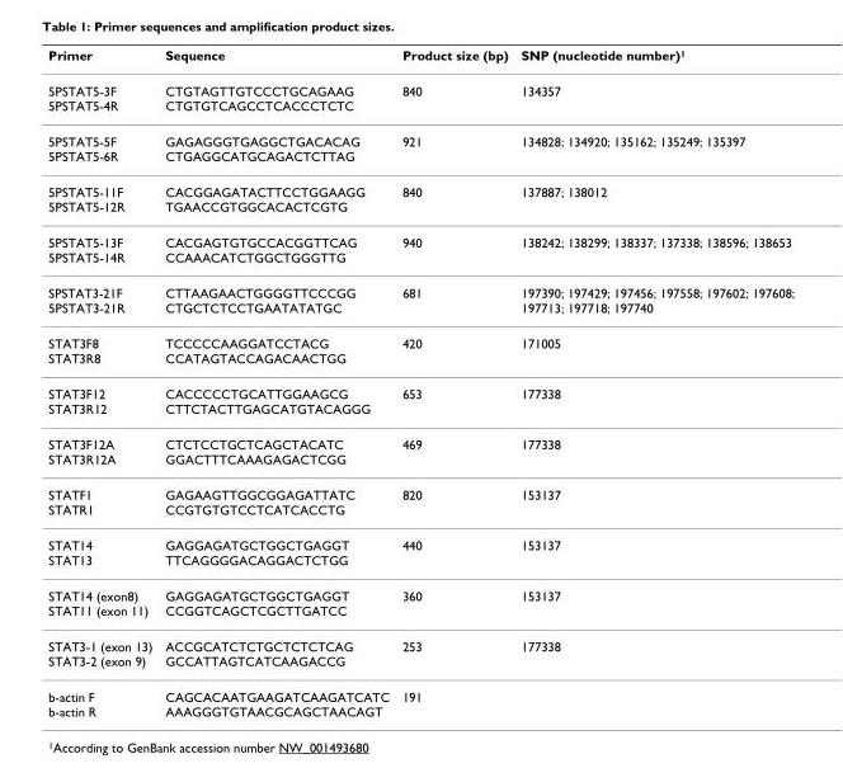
<table><thead><tr><td>Primer</td><td>Sequence</td><td>Product size (bp)</td><td>SNP (nucleotide number)<sup>1</sup></td></tr></thead><tbody><tr><td>5PSTAT5-3F 5PSTAT5-4R</td><td>CTGTAGTTGTCCCTGCAGAAG CTGTGTCAGCCTCACCCTCTC</td><td>840</td><td>134357</td></tr><tr><td>5PSTAT5-5F 5PSTAT5-6R</td><td>GAGAGGGTGAGGCTGACACAG CTGAGGCATGCAGACTCTTAG</td><td>921</td><td>134828; 134920; 135162; 135249; 135397</td></tr><tr><td>5PSTAT5-11F 5PSTAT5-12R</td><td>CACGGAGATACTTCCTGGAAGG TGAACCGTGGCACACTCGTG</td><td>840</td><td>137887; 138012</td></tr><tr><td>5PSTAT5-13F 5PSTAT5-14R</td><td>CACGAGTGTGCCACGGTTCAG CCAAACATCTGGCTGGGTTG</td><td>940</td><td>138242; 138299; 138337; 137338; 138596; 138653</td></tr><tr><td>SPSTAT3-21F 5PSTAT3-21R</td><td>CTTAAGAACTGGGGTTCCCGG CTGCTCTCCTGAATATATGC</td><td>681</td><td>197390; 197429; 197456; 197558; 197602; 197608; 197713; 197718; 197740</td></tr><tr><td>STAT3F8 STAT3R8</td><td>TCCCCCAAGGATCCTACG CCATAGTACCAGACAACTGG</td><td>420</td><td>171005</td></tr><tr><td>STAT3F12 STAT3R12</td><td>CACCCCCTGCATTGGAAGCG CTTCTACTTGAGCATGTACAGGG</td><td>653</td><td>177338</td></tr><tr><td>STAT3F12A STAT3R12A</td><td>CTCTCCTGCTCAGCTACATC GGACTTTCAAAGAGACTCGG</td><td>469</td><td>177338</td></tr><tr><td>STATF1 STATR1</td><td>GAGAAGTTGGCGGAGATTATC CCGTGTGTCCTCATCACCTG</td><td>820</td><td>153137</td></tr><tr><td>STAT14 STAT13</td><td>GAGGAGATGCTGGCTGAGGT TTCAGGGGACAGGACTCTGG</td><td>440</td><td>153137</td></tr><tr><td>STAT14 (exon8) STAT11 (exon 11)</td><td>GAGGAGATGCTGGCTGAGGT CCGGTCAGCTCGCTTGATCC</td><td>360</td><td>153137</td></tr><tr><td>STAT3-1 (exon 13) STAT3-2 (exon 9)</td><td>ACCGCATCTCTGCTCTCTCAG GCCATTAGTCATCAAGACCG</td><td>253</td><td>177338</td></tr><tr><td>b-actin F b-actin R</td><td>CAGCACAATGAAGATCAAGATCATC AAAGGGTGTAACGCAGCTAACAGT</td><td>191</td><td></td></tr></tbody></table>